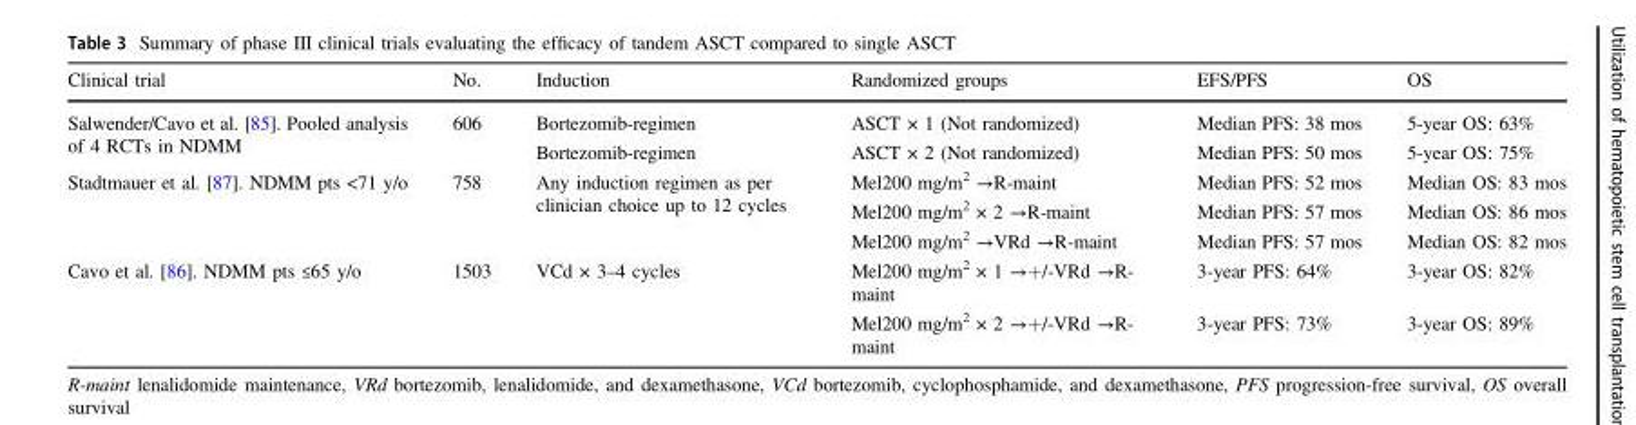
<table><thead><tr><td>Clinical trial</td><td>No.</td><td>Induction</td><td>Randomized groups</td><td>EFS/PFS</td><td>OS</td></tr></thead><tbody><tr><td rowspan="2">Salwender/Cavo et al. [85]. Pooled analysis of 4 RCTs in NDMM</td><td rowspan="2">606</td><td>Bortezomib-regimen</td><td>ASCT × 1 (Not randomized)</td><td>Median PFS: 38 mos</td><td>5-year OS: 63%</td></tr><tr><td>Bortezomib-regimen</td><td>ASCT × 2 (Not randomized)</td><td>Median PFS: 50 mos</td><td>5-year OS: 75%</td></tr><tr><td rowspan="3">Stadtmauer et al. [87]. NDMM pts &lt;71 y/o</td><td rowspan="3">758</td><td rowspan="3">Any induction regimen as per clinician choice up to 12 cycles</td><td>Mel200 mg/m<sup>2</sup> →R-maint</td><td>Median PFS: 52 mos</td><td>Median OS: 83 mos</td></tr><tr><td>Mel200 mg/m<sup>2</sup> × 2 →R-maint</td><td>Median PFS: 57 mos</td><td>Median OS: 86 mos</td></tr><tr><td>Mel200 mg/m<sup>2</sup> →VRd →R-maint</td><td>Median PFS: 57 mos</td><td>Median OS: 82 mos</td></tr><tr><td rowspan="2">Cavo et al. [86]. NDMM pts ≤65 y/o</td><td rowspan="2">1503</td><td rowspan="2">VCd × 3–4 cycles</td><td>Mel200 mg/m<sup>2</sup> × 1 →+/-VRd →R- maint</td><td>3-year PFS: 64%</td><td>3-year OS: 82%</td></tr><tr><td>Mel200 mg/m<sup>2</sup> × 2 →+/-VRd →R- maint</td><td>3-year PFS: 73%</td><td>3-year OS: 89%</td></tr></tbody></table>